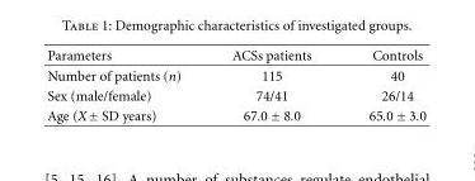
<table><thead><tr><td>Parameters</td><td>ACSs patients</td><td>Controls</td></tr></thead><tbody><tr><td>Number of patients (n)</td><td>115</td><td>40</td></tr><tr><td>Sex (male/female)</td><td>74/41</td><td>26/14</td></tr><tr><td>Age (X± SD years)</td><td>67.0 ± 8.0</td><td>65.0 ± 3.0</td></tr></tbody></table>